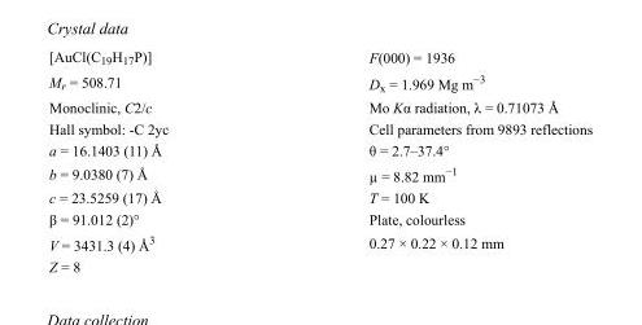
<table><tbody><tr><td>[AuCl(C<sub>19</sub>H<sub>17</sub>P)]</td><td>F(000) = 1936</td></tr><tr><td>M<sub>r</sub> = 508.71</td><td>D<sub>x</sub> = 1.969 Mg m<sup>−3</sup></td></tr><tr><td>Monoclinic, C2/c</td><td>Mo Kα radiation, λ = 0.71073 Å</td></tr><tr><td>Hall symbol: -C 2yc</td><td>Cell parameters from 9893 reflections</td></tr><tr><td>a = 16.1403 (11) Å</td><td>θ = 2.7–37.4°</td></tr><tr><td>b = 9.0380 (7) Å</td><td>µ = 8.82 mm<sup>−1</sup></td></tr><tr><td>c = 23.5259 (17) Å</td><td>T = 100 K</td></tr><tr><td>β = 91.012 (2)°</td><td>Plate, colourless</td></tr><tr><td>V = 3431.3 (4) Å<sup>3</sup></td><td>0.27 × 0.22 × 0.12 mm</td></tr><tr><td>Z = 8</td><td></td></tr></tbody></table>